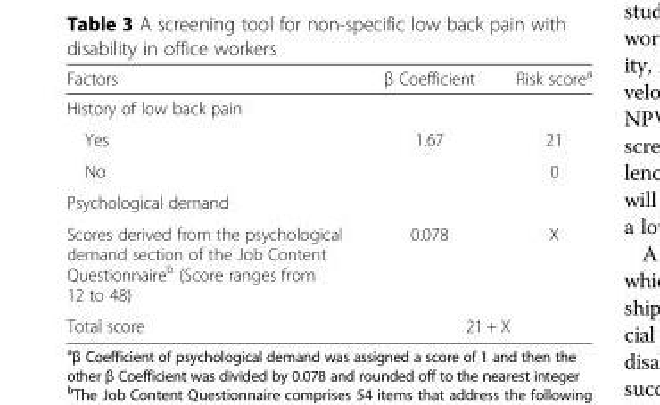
<table><thead><tr><td>Factors</td><td>β Coefficient</td><td>Risk score<sup>a</sup></td></tr></thead><tbody><tr><td colspan="3">History of low back pain</td></tr><tr><td>Yes</td><td>1.67</td><td>21</td></tr><tr><td>No</td><td></td><td>0</td></tr><tr><td colspan="3">Psychological demand</td></tr><tr><td>Scores derived from the psychological demand section of the Job Content Questionnaire<sup>b</sup> (Score ranges from 12 to 48)</td><td>0.078</td><td>X</td></tr><tr><td>Total score</td><td colspan="2">21 + X</td></tr></tbody></table>